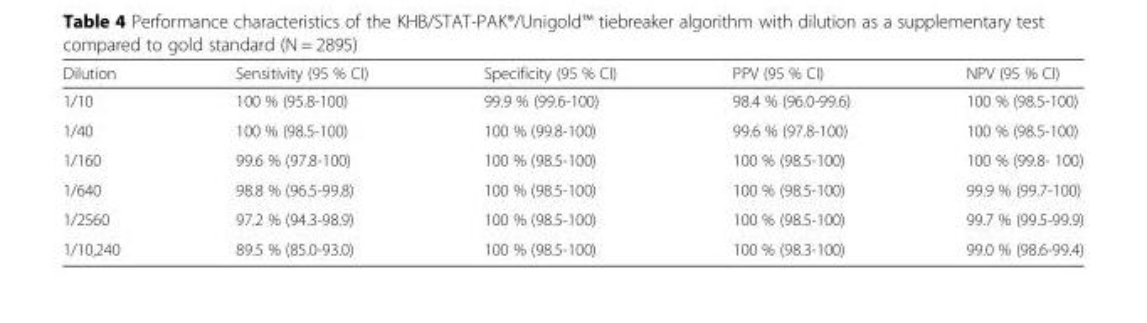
<table><thead><tr><td>Dilution</td><td>Sensitivity (95 % CI)</td><td>Specificity (95 % CI)</td><td>PPV (95 % CI)</td><td>NPV (95 % CI)</td></tr></thead><tbody><tr><td>1/10</td><td>100 % (95.8-100)</td><td>99.9 % (99.6-100)</td><td>98.4 % (96.0-99.6)</td><td>100 % (98.5-100)</td></tr><tr><td>1/40</td><td>100 % (98.5-100)</td><td>100 % (99.8-100)</td><td>99.6 % (97.8-100)</td><td>100 % (98.5-100)</td></tr><tr><td>1/160</td><td>99.6 % (97.8-100)</td><td>100 % (98.5-100)</td><td>100 % (98.5-100)</td><td>100 % (99.8- 100)</td></tr><tr><td>1/640</td><td>98.8 % (96.5-99.8)</td><td>100 % (98.5-100)</td><td>100 % (98.5-100)</td><td>99.9 % (99.7-100)</td></tr><tr><td>1/2560</td><td>97.2 % (94.3-98.9)</td><td>100 % (98.5-100)</td><td>100 % (98.5-100)</td><td>99.7 % (99.5-99.9)</td></tr><tr><td>1/10,240</td><td>89.5 % (85.0-93.0)</td><td>100 % (98.5-100)</td><td>100 % (98.3-100)</td><td>99.0 % (98.6-99.4)</td></tr></tbody></table>